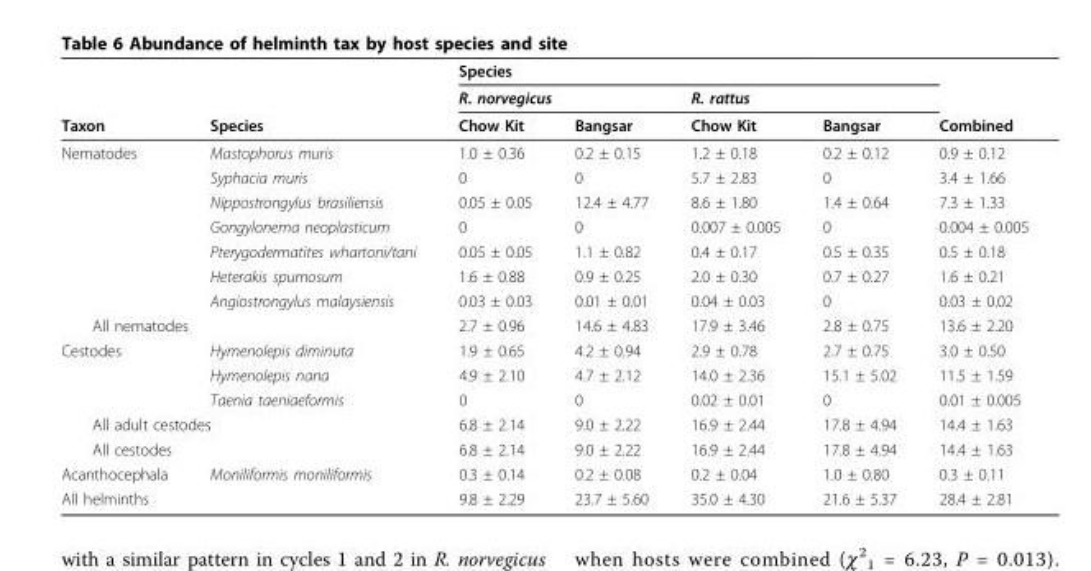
<table><thead><tr><td rowspan="3">Taxon</td><td rowspan="3">Species</td><td colspan="5">Species</td></tr><tr><td colspan="2">R. norvegicus</td><td colspan="2">R. rattus</td><td rowspan="2">Combined</td></tr><tr><td>Chow Kit</td><td>Bangsar</td><td>Chow Kit</td><td>Bangsar</td></tr></thead><tbody><tr><td rowspan="7">Nematodes</td><td>Mastophorus muris</td><td>1.0 ± 0.36</td><td>0.2 ± 0.15</td><td>1.2 ± 0.18</td><td>0.2 ± 0.12</td><td>0.9 ± 0.12</td></tr><tr><td>Syphacia muris</td><td>0</td><td>0</td><td>5.7 ± 2.83</td><td>0</td><td>3.4 ± 1.66</td></tr><tr><td>Nippostrongylus brasiliensis</td><td>0.05 ± 0.05</td><td>12.4 ± 4.77</td><td>8.6 ± 1.80</td><td>1.4 ± 0.64</td><td>7.3 ± 1.33</td></tr><tr><td>Gongylonema neoplasticum</td><td>0</td><td>0</td><td>0.007 ± 0.005</td><td>0</td><td>0.004 ± 0.005</td></tr><tr><td>Pterygodermatites whartoni/tani</td><td>0.05 ± 0.05</td><td>1.1 ± 0.82</td><td>0.4 ± 0.17</td><td>0.5 ± 0.35</td><td>0.5 ± 0.18</td></tr><tr><td>Heterakis spumosum</td><td>1.6 ± 0.88</td><td>0.9 ± 0.25</td><td>2.0 ± 0.30</td><td>0.7 ± 0.27</td><td>1.6 ± 0.21</td></tr><tr><td>Angiostrongylus malaysiensis</td><td>0.03 ± 0.03</td><td>0.01 ± 0.01</td><td>0.04 ± 0.03</td><td>0</td><td>0.03 ± 0.02</td></tr><tr><td colspan="2">All nematodes</td><td>2.7 ± 0.96</td><td>14.6 ± 4.83</td><td>17.9 ± 3.46</td><td>2.8 ± 0.75</td><td>13.6 ± 2.20</td></tr><tr><td rowspan="3">Cestodes</td><td>Hymenolepis diminuta</td><td>1.9 ± 0.65</td><td>4.2 ± 0.94</td><td>2.9 ± 0.78</td><td>2.7 ± 0.75</td><td>3.0 ± 0.50</td></tr><tr><td>Hymenolepis nana</td><td>4.9 ± 2.10</td><td>4.7 ± 2.12</td><td>14.0 ± 2.36</td><td>15.1 ± 5.02</td><td>11.5 ± 1.59</td></tr><tr><td>Taenia taeniaeformis</td><td>0</td><td>0</td><td>0.02 ± 0.01</td><td>0</td><td>0.01 ± 0.005</td></tr><tr><td colspan="2">All adult cestodes</td><td>6.8 ± 2.14</td><td>9.0 ± 2.22</td><td>16.9 ± 2.44</td><td>17.8 ± 4.94</td><td>14.4 ± 1.63</td></tr><tr><td colspan="2">All cestodes</td><td>6.8 ± 2.14</td><td>9.0 ± 2.22</td><td>16.9 ± 2.44</td><td>17.8 ± 4.94</td><td>14.4 ± 1.63</td></tr><tr><td>Acanthocephala</td><td>Moniliformis moniliformis</td><td>0.3 ± 0.14</td><td>0.2 ± 0.08</td><td>0.2 ± 0.04</td><td>1.0 ± 0.80</td><td>0.3 ± 0.11</td></tr><tr><td>All helminths</td><td></td><td>9.8 ± 2.29</td><td>23.7 ± 5.60</td><td>35.0 ± 4.30</td><td>21.6 ± 5.37</td><td>28.4 ± 2.81</td></tr></tbody></table>